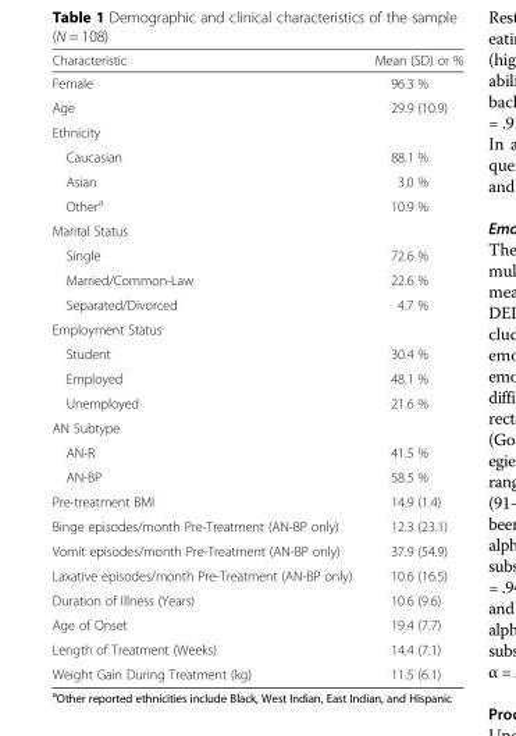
<table><thead><tr><td>Characteristic</td><td>Mean (SD) or %</td></tr></thead><tbody><tr><td>Female</td><td>96.3 %</td></tr><tr><td>Age</td><td>29.9 (10.9)</td></tr><tr><td colspan="2">Ethnicity</td></tr><tr><td>Caucasian</td><td>88.1 %</td></tr><tr><td>Asian</td><td>3.0 %</td></tr><tr><td>Other<sup>a</sup></td><td>10.9 %</td></tr><tr><td colspan="2">Marital Status</td></tr><tr><td>Single</td><td>72.6 %</td></tr><tr><td>Married/Common-Law</td><td>22.6 %</td></tr><tr><td>Separated/Divorced</td><td>4.7 %</td></tr><tr><td colspan="2">Employment Status</td></tr><tr><td>Student</td><td>30.4 %</td></tr><tr><td>Employed</td><td>48.1 %</td></tr><tr><td>Unemployed</td><td>21.6 %</td></tr><tr><td colspan="2">AN Subtype</td></tr><tr><td>AN-R</td><td>41.5 %</td></tr><tr><td>AN-BP</td><td>58.5 %</td></tr><tr><td>Pre-treatment BMI</td><td>14.9 (1.4)</td></tr><tr><td>Binge episodes/month Pre-Treatment (AN-BP only)</td><td>12.3 (23.1)</td></tr><tr><td>Vomit episodes/month Pre-Treatment (AN-BP only)</td><td>37.9 (54.9)</td></tr><tr><td>Laxative episodes/month Pre-Treatment (AN-BP only)</td><td>10.6 (16.5)</td></tr><tr><td>Duration of Illness (Years)</td><td>10.6 (9.6)</td></tr><tr><td>Age of Onset</td><td>19.4 (7.7)</td></tr><tr><td>Length of Treatment (Weeks)</td><td>14.4 (7.1)</td></tr><tr><td>Weight Gain During Treatment (kg)</td><td>11.5 (6.1)</td></tr></tbody></table>